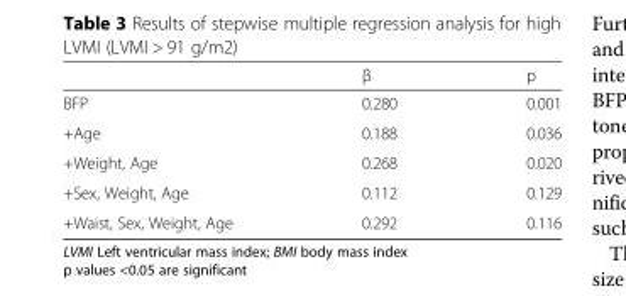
<table><thead><tr><td></td><td>β</td><td>p</td></tr></thead><tbody><tr><td>BFP</td><td>0.280</td><td>0.001</td></tr><tr><td>+Age</td><td>0.188</td><td>0.036</td></tr><tr><td>+Weight, Age</td><td>0.268</td><td>0.020</td></tr><tr><td>+Sex, Weight, Age</td><td>0.112</td><td>0.129</td></tr><tr><td>+Waist, Sex, Weight, Age</td><td>0.292</td><td>0.116</td></tr></tbody></table>